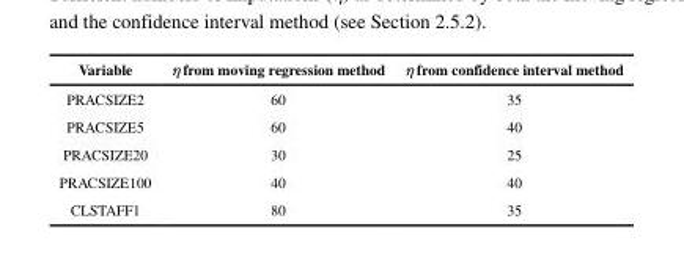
<table><thead><tr><td>Variable</td><td>η from moving regression method</td><td>η from confidence interval method</td></tr></thead><tbody><tr><td>PRACSIZE2</td><td>60</td><td>35</td></tr><tr><td>PRACSIZE5</td><td>60</td><td>40</td></tr><tr><td>PRACSIZE20</td><td>30</td><td>25</td></tr><tr><td>PRACSIZE100</td><td>40</td><td>40</td></tr><tr><td>CLSTAFF1</td><td>80</td><td>35</td></tr></tbody></table>